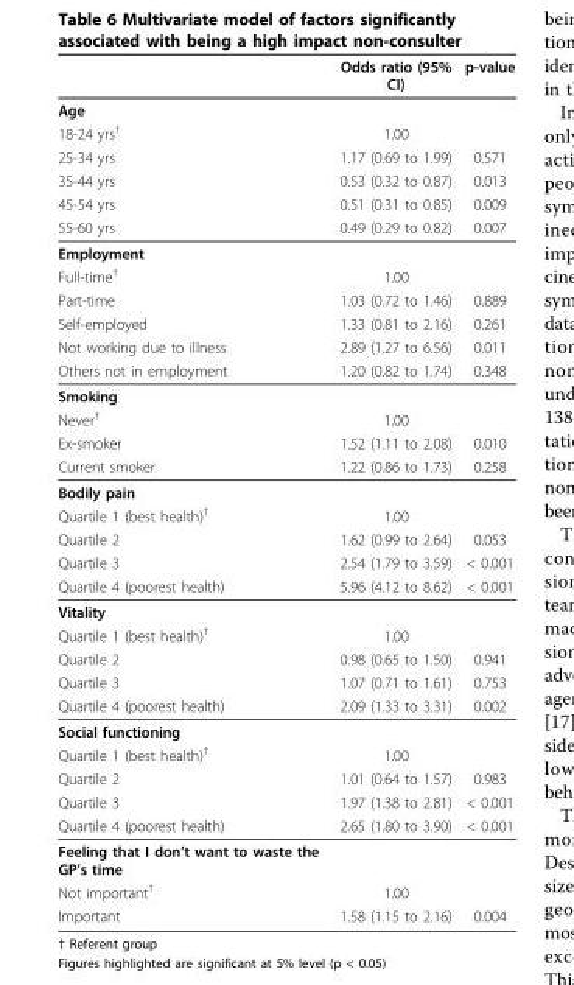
<table><thead><tr><td></td><td>Odds ratio (95% CI)</td><td>p-value</td></tr></thead><tbody><tr><td colspan="3">Age</td></tr><tr><td>18-24 yrs<sup>†</sup></td><td>1.00</td><td></td></tr><tr><td>25-34 yrs</td><td>1.17 (0.69 to 1.99)</td><td>0.571</td></tr><tr><td>35-44 yrs</td><td>0.53 (0.32 to 0.87)</td><td>0.013</td></tr><tr><td>45-54 yrs</td><td>0.51 (0.31 to 0.85)</td><td>0.009</td></tr><tr><td>55-60 yrs</td><td>0.49 (0.29 to 0.82)</td><td>0.007</td></tr><tr><td colspan="3">Employment</td></tr><tr><td>Full-time<sup>†</sup></td><td>1.00</td><td></td></tr><tr><td>Part-time</td><td>1.03 (0.72 to 1.46)</td><td>0.889</td></tr><tr><td>Self-employed</td><td>1.33 (0.81 to 2.16)</td><td>0.261</td></tr><tr><td>Not working due to illness</td><td>2.89 (1.27 to 6.56)</td><td>0.011</td></tr><tr><td>Others not in employment</td><td>1.20 (0.82 to 1.74)</td><td>0.348</td></tr><tr><td colspan="3">Smoking</td></tr><tr><td>Never<sup>†</sup></td><td>1.00</td><td></td></tr><tr><td>Ex-smoker</td><td>1.52 (1.11 to 2.08)</td><td>0.010</td></tr><tr><td>Current smoker</td><td>1.22 (0.86 to 1.73)</td><td>0.258</td></tr><tr><td colspan="3">Bodily pain</td></tr><tr><td>Quartile 1 (best health)<sup>†</sup></td><td>1.00</td><td></td></tr><tr><td>Quartile 2</td><td>1.62 (0.99 to 2.64)</td><td>0.053</td></tr><tr><td>Quartile 3</td><td>2.54 (1.79 to 3.59)</td><td>&lt; 0.001</td></tr><tr><td>Quartile 4 (poorest health)</td><td>5.96 (4.12 to 8.62)</td><td>&lt; 0.001</td></tr><tr><td colspan="3">Vitality</td></tr><tr><td>Quartile 1 (best health)<sup>†</sup></td><td>1.00</td><td></td></tr><tr><td>Quartile 2</td><td>0.98 (0.65 to 1.50)</td><td>0.941</td></tr><tr><td>Quartile 3</td><td>1.07 (0.71 to 1.61)</td><td>0.753</td></tr><tr><td>Quartile 4 (poorest health)</td><td>2.09 (1.33 to 3.31)</td><td>0.002</td></tr><tr><td colspan="3">Social functioning</td></tr><tr><td>Quartile 1 (best health)<sup>†</sup></td><td>1.00</td><td></td></tr><tr><td>Quartile 2</td><td>1.01 (0.64 to 1.57)</td><td>0.983</td></tr><tr><td>Quartile 3</td><td>1.97 (1.38 to 2.81)</td><td>&lt; 0.001</td></tr><tr><td>Quartile 4 (poorest health)</td><td>2.65 (1.80 to 3.90)</td><td>&lt; 0.001</td></tr><tr><td colspan="3">Feeling that I don’t want to waste the GP’s time</td></tr><tr><td>Not important<sup>†</sup></td><td>1.00</td><td></td></tr><tr><td>Important</td><td>1.58 (1.15 to 2.16)</td><td>0.004</td></tr></tbody></table>